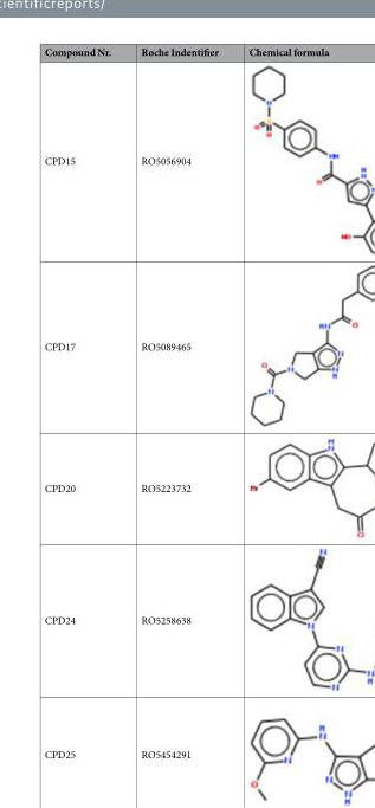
<table><thead><tr><td>Compound Nr.</td><td>Roche Indentifier</td><td>Chemical formula</td></tr></thead><tbody><tr><td>CPD15</td><td>RO5056904</td><td></td></tr><tr><td>CPD17</td><td>RO5089465</td><td></td></tr><tr><td>CPD20</td><td>RO5223732</td><td></td></tr><tr><td>CPD24</td><td>RO5258638</td><td></td></tr><tr><td>CPD25</td><td>RO5454291</td><td></td></tr></tbody></table>